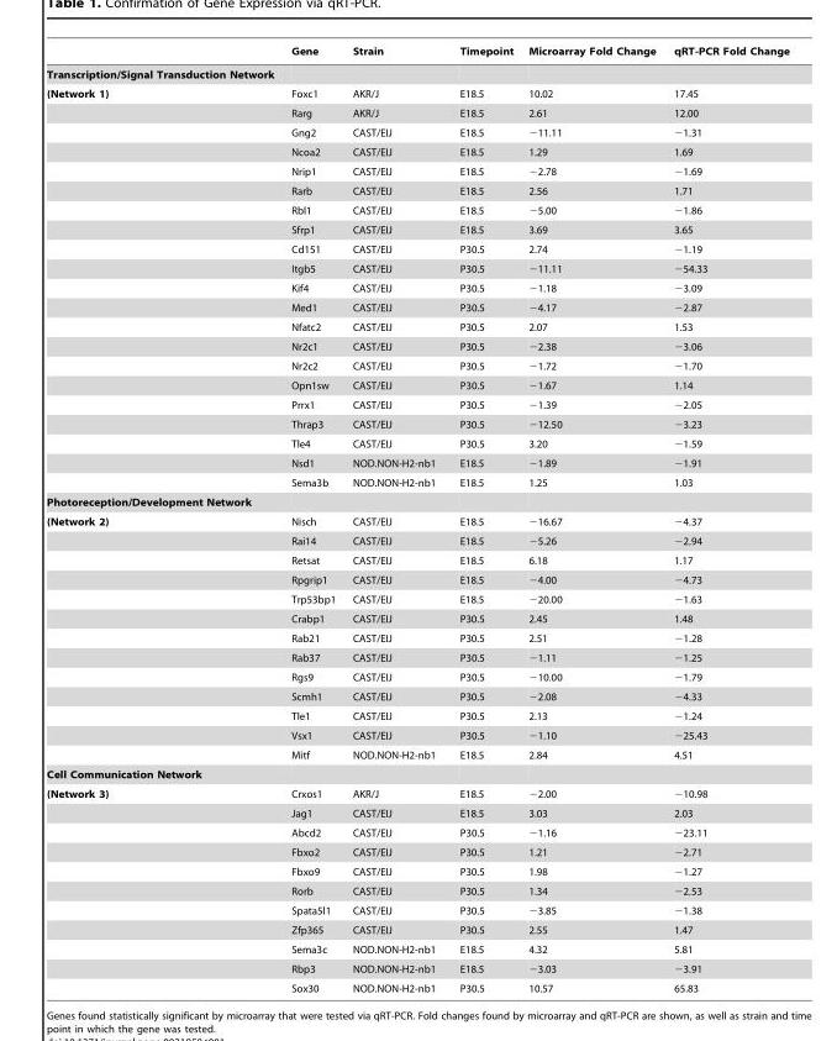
<table><thead><tr><td></td><td>Gene</td><td>Strain</td><td>Timepoint</td><td>Microarray Fold Change</td><td>qRT-PCR Fold Change</td></tr></thead><tbody><tr><td colspan="6">Transcription/Signal Transduction Network</td></tr><tr><td rowspan="21">(Network 1)</td><td>Foxc1</td><td>AKR/J</td><td>E18.5</td><td>10.02</td><td>17.45</td></tr><tr><td>Rarg</td><td>AKR/J</td><td>E18.5</td><td>2.61</td><td>12.00</td></tr><tr><td>Gng2</td><td>CAST/EIJ</td><td>E18.5</td><td>−11.11</td><td>−1.31</td></tr><tr><td>Ncoa2</td><td>CAST/EIJ</td><td>E18.5</td><td>1.29</td><td>1.69</td></tr><tr><td>Nrip1</td><td>CAST/EIJ</td><td>E18.5</td><td>−2.78</td><td>−1.69</td></tr><tr><td>Rarb</td><td>CAST/EIJ</td><td>E18.5</td><td>2.56</td><td>1.71</td></tr><tr><td>Rbl1</td><td>CAST/EIJ</td><td>E18.5</td><td>−5.00</td><td>−1.86</td></tr><tr><td>Sfrp1</td><td>CAST/EIJ</td><td>E18.5</td><td>3.69</td><td>3.65</td></tr><tr><td>Cd151</td><td>CAST/EIJ</td><td>P30.5</td><td>2.74</td><td>−1.19</td></tr><tr><td>Itgb5</td><td>CAST/EIJ</td><td>P30.5</td><td>−11.11</td><td>−54.33</td></tr><tr><td>Kif4</td><td>CAST/EIJ</td><td>P30.5</td><td>−1.18</td><td>−3.09</td></tr><tr><td>Med1</td><td>CAST/EIJ</td><td>P30.5</td><td>−4.17</td><td>−2.87</td></tr><tr><td>Nfatc2</td><td>CAST/EIJ</td><td>P30.5</td><td>2.07</td><td>1.53</td></tr><tr><td>Nr2c1</td><td>CAST/EIJ</td><td>P30.5</td><td>−2.38</td><td>−3.06</td></tr><tr><td>Nr2c2</td><td>CAST/EIJ</td><td>P30.5</td><td>−1.72</td><td>−1.70</td></tr><tr><td>Opn1sw</td><td>CAST/EIJ</td><td>P30.5</td><td>−1.67</td><td>1.14</td></tr><tr><td>Prrx1</td><td>CAST/EIJ</td><td>P30.5</td><td>−1.39</td><td>−2.05</td></tr><tr><td>Thrap3</td><td>CAST/EIJ</td><td>P30.5</td><td>−12.50</td><td>−3.23</td></tr><tr><td>Tle4</td><td>CAST/EIJ</td><td>P30.5</td><td>3.20</td><td>−1.59</td></tr><tr><td>Nsd1</td><td>NOD.NON-H2-nb1</td><td>E18.5</td><td>−1.89</td><td>−1.91</td></tr><tr><td>Sema3b</td><td>NOD.NON-H2-nb1</td><td>E18.5</td><td>1.25</td><td>1.03</td></tr><tr><td colspan="6">Photoreception/Development Network</td></tr><tr><td rowspan="13">(Network 2)</td><td>Nisch</td><td>CAST/EIJ</td><td>E18.5</td><td>−16.67</td><td>−4.37</td></tr><tr><td>Rai14</td><td>CAST/EIJ</td><td>E18.5</td><td>−5.26</td><td>−2.94</td></tr><tr><td>Retsat</td><td>CAST/EIJ</td><td>E18.5</td><td>6.18</td><td>1.17</td></tr><tr><td>Rpgrip1</td><td>CAST/EIJ</td><td>E18.5</td><td>−4.00</td><td>−4.73</td></tr><tr><td>Trp53bp1</td><td>CAST/EIJ</td><td>E18.5</td><td>−20.00</td><td>−1.63</td></tr><tr><td>Crabp1</td><td>CAST/EIJ</td><td>P30.5</td><td>2.45</td><td>1.48</td></tr><tr><td>Rab21</td><td>CAST/EIJ</td><td>P30.5</td><td>2.51</td><td>−1.28</td></tr><tr><td>Rab37</td><td>CAST/EIJ</td><td>P30.5</td><td>−1.11</td><td>−1.25</td></tr><tr><td>Rgs9</td><td>CAST/EIJ</td><td>P30.5</td><td>−10.00</td><td>−1.79</td></tr><tr><td>Scmh1</td><td>CAST/EIJ</td><td>P30.5</td><td>−2.08</td><td>−4.33</td></tr><tr><td>Tle1</td><td>CAST/EIJ</td><td>P30.5</td><td>2.13</td><td>−1.24</td></tr><tr><td>Vsx1</td><td>CAST/EIJ</td><td>P30.5</td><td>−1.10</td><td>−25.43</td></tr><tr><td>Mitf</td><td>NOD.NON-H2-nb1</td><td>E18.5</td><td>2.84</td><td>4.51</td></tr><tr><td colspan="6">Cell Communication Network</td></tr><tr><td rowspan="11">(Network 3)</td><td>Crxos1</td><td>AKR/J</td><td>E18.5</td><td>−2.00</td><td>−10.98</td></tr><tr><td>Jag1</td><td>CAST/EIJ</td><td>E18.5</td><td>3.03</td><td>2.03</td></tr><tr><td>Abcd2</td><td>CAST/EIJ</td><td>P30.5</td><td>−1.16</td><td>−23.11</td></tr><tr><td>Fbxo2</td><td>CAST/EIJ</td><td>P30.5</td><td>1.21</td><td>−2.71</td></tr><tr><td>Fbxo9</td><td>CAST/EIJ</td><td>P30.5</td><td>1.98</td><td>−1.27</td></tr><tr><td>Rorb</td><td>CAST/EIJ</td><td>P30.5</td><td>1.34</td><td>−2.53</td></tr><tr><td>Spata5l1</td><td>CAST/EIJ</td><td>P30.5</td><td>−3.85</td><td>−1.38</td></tr><tr><td>Zfp365</td><td>CAST/EIJ</td><td>P30.5</td><td>2.55</td><td>1.47</td></tr><tr><td>Sema3c</td><td>NOD.NON-H2-nb1</td><td>E18.5</td><td>4.32</td><td>5.81</td></tr><tr><td>Rbp3</td><td>NOD.NON-H2-nb1</td><td>E18.5</td><td>−3.03</td><td>−3.91</td></tr><tr><td>Sox30</td><td>NOD.NON-H2-nb1</td><td>P30.5</td><td>10.57</td><td>65.83</td></tr></tbody></table>